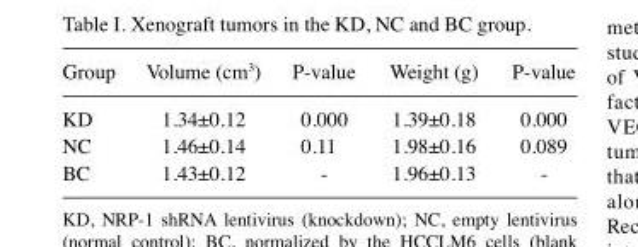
<table><thead><tr><td>Group</td><td>Volume (cm<sup>3</sup>)</td><td>P-value</td><td>Weight (g)</td><td>P-value</td></tr></thead><tbody><tr><td>KD</td><td>1.34±0.12</td><td>0.000</td><td>1.39±0.18</td><td>0.000</td></tr><tr><td>NC</td><td>1.46±0.14</td><td>0.11</td><td>1.98±0.16</td><td>0.089</td></tr><tr><td>BC</td><td>1.43±0.12</td><td>-</td><td>1.96±0.13</td><td>-</td></tr></tbody></table>